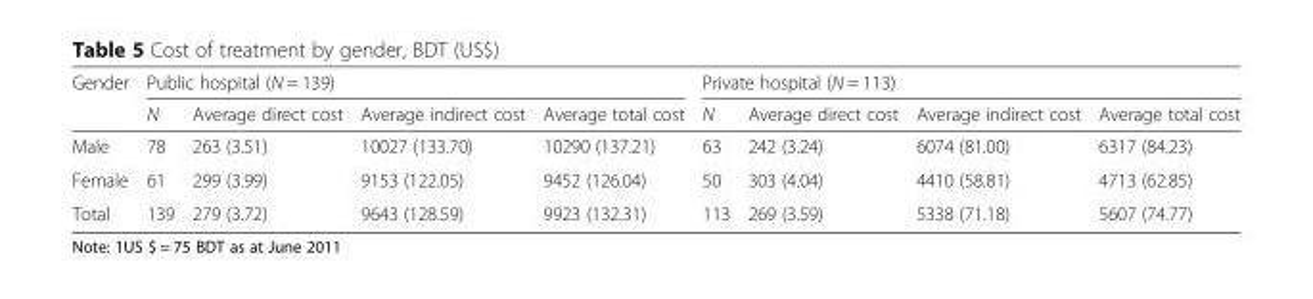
<table><thead><tr><td rowspan="2">Gender</td><td colspan="4">Public hospital (N = 139)</td><td colspan="4">Private hospital (N = 113)</td></tr><tr><td>N</td><td>Average direct cost</td><td>Average indirect cost</td><td>Average total cost</td><td>N</td><td>Average direct cost</td><td>Average indirect cost</td><td>Average total cost</td></tr></thead><tbody><tr><td>Male</td><td>78</td><td>263 (3.51)</td><td>10027 (133.70)</td><td>10290 (137.21)</td><td>63</td><td>242 (3.24)</td><td>6074 (81.00)</td><td>6317 (84.23)</td></tr><tr><td>Female</td><td>61</td><td>299 (3.99)</td><td>9153 (122.05)</td><td>9452 (126.04)</td><td>50</td><td>303 (4.04)</td><td>4410 (58.81)</td><td>4713 (62.85)</td></tr><tr><td>Total</td><td>139</td><td>279 (3.72)</td><td>9643 (128.59)</td><td>9923 (132.31)</td><td>113</td><td>269 (3.59)</td><td>5338 (71.18)</td><td>5607 (74.77)</td></tr></tbody></table>